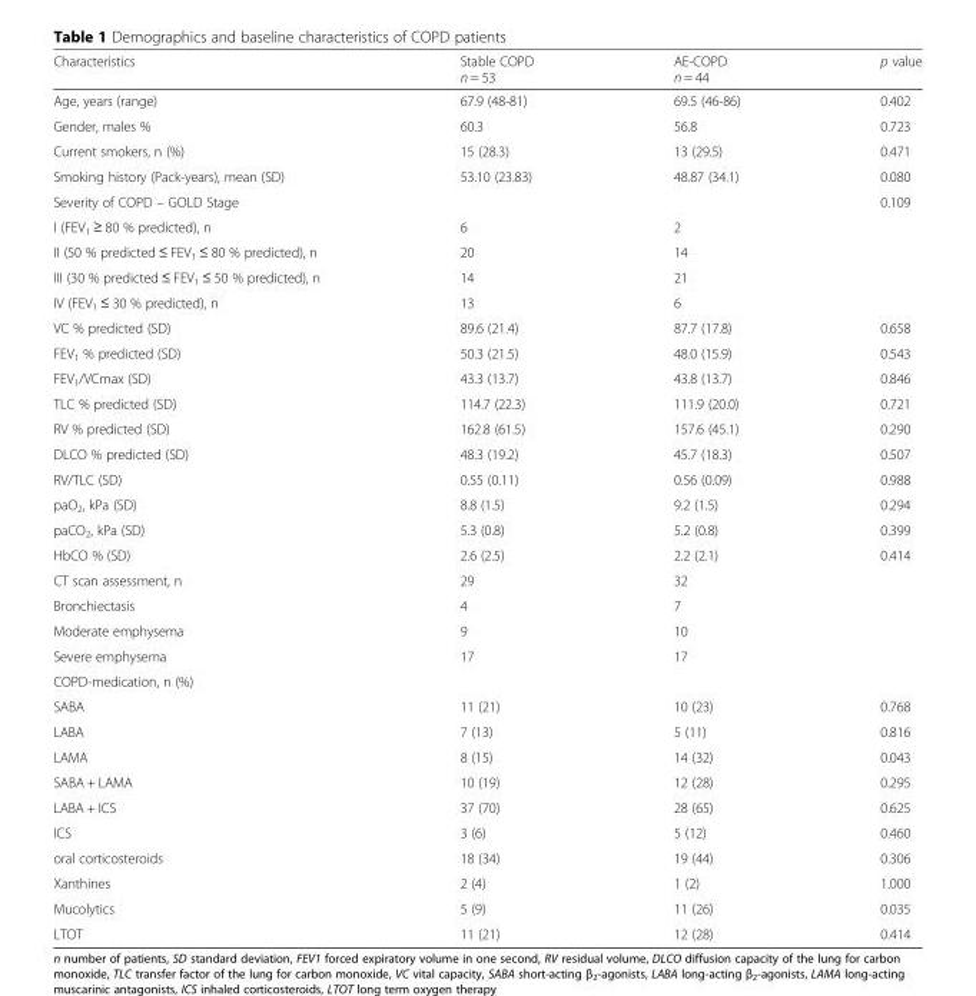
<table><thead><tr><td>Characteristics</td><td>Stable COPD n = 53</td><td>AE-COPD n = 44</td><td>p value</td></tr></thead><tbody><tr><td>Age, years (range)</td><td>67.9 (48-81)</td><td>69.5 (46-86)</td><td>0.402</td></tr><tr><td>Gender, males %</td><td>60.3</td><td>56.8</td><td>0.723</td></tr><tr><td>Current smokers, n (%)</td><td>15 (28.3)</td><td>13 (29.5)</td><td>0.471</td></tr><tr><td>Smoking history (Pack-years), mean (SD)</td><td>53.10 (23.83)</td><td>48.87 (34.1)</td><td>0.080</td></tr><tr><td>Severity of COPD – GOLD Stage</td><td></td><td></td><td>0.109</td></tr><tr><td>I (FEV<sub>1</sub> ≥ 80 % predicted), n</td><td>6</td><td>2</td><td></td></tr><tr><td>II (50 % predicted ≤ FEV<sub>1</sub> ≤ 80 % predicted), n</td><td>20</td><td>14</td><td></td></tr><tr><td>III (30 % predicted ≤ FEV<sub>1</sub> ≤ 50 % predicted), n</td><td>14</td><td>21</td><td></td></tr><tr><td>IV (FEV<sub>1</sub> ≤ 30 % predicted), n</td><td>13</td><td>6</td><td></td></tr><tr><td>VC % predicted (SD)</td><td>89.6 (21.4)</td><td>87.7 (17.8)</td><td>0.658</td></tr><tr><td>FEV<sub>1</sub> % predicted (SD)</td><td>50.3 (21.5)</td><td>48.0 (15.9)</td><td>0.543</td></tr><tr><td>FEV<sub>1</sub>/VCmax (SD)</td><td>43.3 (13.7)</td><td>43.8 (13.7)</td><td>0.846</td></tr><tr><td>TLC % predicted (SD)</td><td>114.7 (22.3)</td><td>111.9 (20.0)</td><td>0.721</td></tr><tr><td>RV % predicted (SD)</td><td>162.8 (61.5)</td><td>157.6 (45.1)</td><td>0.290</td></tr><tr><td>DLCO % predicted (SD)</td><td>48.3 (19.2)</td><td>45.7 (18.3)</td><td>0.507</td></tr><tr><td>RV/TLC (SD)</td><td>0.55 (0.11)</td><td>0.56 (0.09)</td><td>0.988</td></tr><tr><td>paO<sub>2</sub>, kPa (SD)</td><td>8.8 (1.5)</td><td>9.2 (1.5)</td><td>0.294</td></tr><tr><td>paCO<sub>2</sub>, kPa (SD)</td><td>5.3 (0.8)</td><td>5.2 (0.8)</td><td>0.399</td></tr><tr><td>HbCO % (SD)</td><td>2.6 (2.5)</td><td>2.2 (2.1)</td><td>0.414</td></tr><tr><td>CT scan assessment, n</td><td>29</td><td>32</td><td rowspan="5"></td></tr><tr><td>Bronchiectasis</td><td>4</td><td>7</td></tr><tr><td>Moderate emphysema</td><td>9</td><td>10</td></tr><tr><td>Severe emphysema</td><td>17</td><td>17</td></tr><tr><td colspan="3">COPD-medication, n (%)</td></tr><tr><td>SABA</td><td>11 (21)</td><td>10 (23)</td><td>0.768</td></tr><tr><td>LABA</td><td>7 (13)</td><td>5 (11)</td><td>0.816</td></tr><tr><td>LAMA</td><td>8 (15)</td><td>14 (32)</td><td>0.043</td></tr><tr><td>SABA + LAMA</td><td>10 (19)</td><td>12 (28)</td><td>0.295</td></tr><tr><td>LABA + ICS</td><td>37 (70)</td><td>28 (65)</td><td>0.625</td></tr><tr><td>ICS</td><td>3 (6)</td><td>5 (12)</td><td>0.460</td></tr><tr><td>oral corticosteroids</td><td>18 (34)</td><td>19 (44)</td><td>0.306</td></tr><tr><td>Xanthines</td><td>2 (4)</td><td>1 (2)</td><td>1.000</td></tr><tr><td>Mucolytics</td><td>5 (9)</td><td>11 (26)</td><td>0.035</td></tr><tr><td>LTOT</td><td>11 (21)</td><td>12 (28)</td><td>0.414</td></tr></tbody></table>